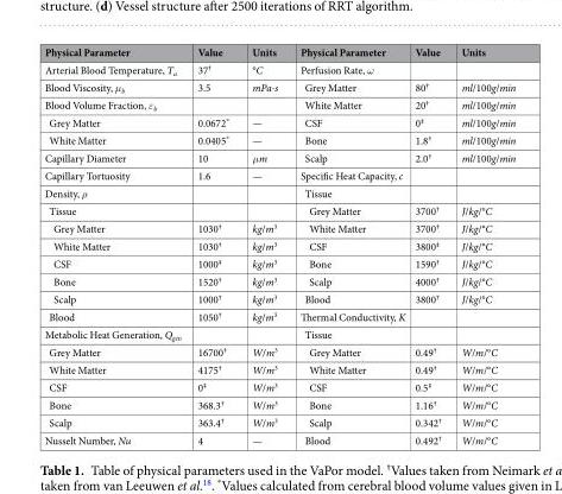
<table><thead><tr><td>Physical Parameter</td><td>Value</td><td>Units</td><td>Physical Parameter</td><td>Value</td><td>Units</td></tr></thead><tbody><tr><td>Arterial Blood Temperature, T<sub>a</sub></td><td>37<sup>†</sup></td><td>°C</td><td>Perfusion Rate, ω</td><td></td><td></td></tr><tr><td>Blood Viscosity, μ<sub>b</sub></td><td>3.5</td><td>mPa⋅s</td><td>Grey Matter</td><td>80<sup>†</sup></td><td>ml/100g/min</td></tr><tr><td>Blood Volume Fraction, ε<sub>b</sub></td><td></td><td></td><td>White Matter</td><td>20<sup>†</sup></td><td>ml/100g/min</td></tr><tr><td>Grey Matter</td><td>0.0672*</td><td>—</td><td>CSF</td><td>0<sup>‡</sup></td><td>ml/100g/min</td></tr><tr><td>White Matter</td><td>0.0405*</td><td>—</td><td>Bone</td><td>1.8<sup>†</sup></td><td>ml/100g/min</td></tr><tr><td>Capillary Diameter</td><td>10</td><td>μm</td><td>Scalp</td><td>2.0<sup>†</sup></td><td>ml/100g/min</td></tr><tr><td>Capillary Tortuosity</td><td>1.6</td><td>—</td><td>Specific Heat Capacity, c</td><td></td><td></td></tr><tr><td>Density, ρ</td><td></td><td></td><td>Tissue</td><td></td><td></td></tr><tr><td>Tissue</td><td></td><td></td><td>Grey Matter</td><td>3700<sup>†</sup></td><td>J/kg/°C</td></tr><tr><td>Grey Matter</td><td>1030<sup>†</sup></td><td>kg/m<sup>3</sup></td><td>White Matter</td><td>3700<sup>†</sup></td><td>J/kg/°C</td></tr><tr><td>White Matter</td><td>1030<sup>†</sup></td><td>kg/m<sup>3</sup></td><td>CSF</td><td>3800<sup>‡</sup></td><td>J/kg/°C</td></tr><tr><td>CSF</td><td>1000<sup>‡</sup></td><td>kg/m<sup>3</sup></td><td>Bone</td><td>1590<sup>†</sup></td><td>J/kg/°C</td></tr><tr><td>Bone</td><td>1520<sup>†</sup></td><td>kg/m<sup>3</sup></td><td>Scalp</td><td>4000<sup>†</sup></td><td>J/kg/°C</td></tr><tr><td>Scalp</td><td>1000<sup>†</sup></td><td>kg/m<sup>3</sup></td><td>Blood</td><td>3800<sup>†</sup></td><td>J/kg/°C</td></tr><tr><td>Blood</td><td>1050<sup>†</sup></td><td>kg/m<sup>3</sup></td><td>Thermal Conductivity, K</td><td></td><td></td></tr><tr><td>Metabolic Heat Generation, Q<sub>gen</sub></td><td></td><td></td><td>Tissue</td><td></td><td></td></tr><tr><td>Grey Matter</td><td>16700<sup>†</sup></td><td>W/m<sup>3</sup></td><td>Grey Matter</td><td>0.49<sup>†</sup></td><td>W/m/°C</td></tr><tr><td>White Matter</td><td>4175<sup>†</sup></td><td>W/m<sup>3</sup></td><td>White Matter</td><td>0.49<sup>†</sup></td><td>W/m/°C</td></tr><tr><td>CSF</td><td>0<sup>‡</sup></td><td>W/m<sup>3</sup></td><td>CSF</td><td>0.5<sup>‡</sup></td><td>W/m/°C</td></tr><tr><td>Bone</td><td>368.3<sup>†</sup></td><td>W/m<sup>3</sup></td><td>Bone</td><td>1.16<sup>†</sup></td><td>W/m/°C</td></tr><tr><td>Scalp</td><td>363.4<sup>†</sup></td><td>W/m<sup>3</sup></td><td>Scalp</td><td>0.342<sup>†</sup></td><td>W/m/°C</td></tr><tr><td>Nusselt Number, Nu</td><td>4</td><td>—</td><td>Blood</td><td>0.492<sup>†</sup></td><td>W/m/°C</td></tr></tbody></table>